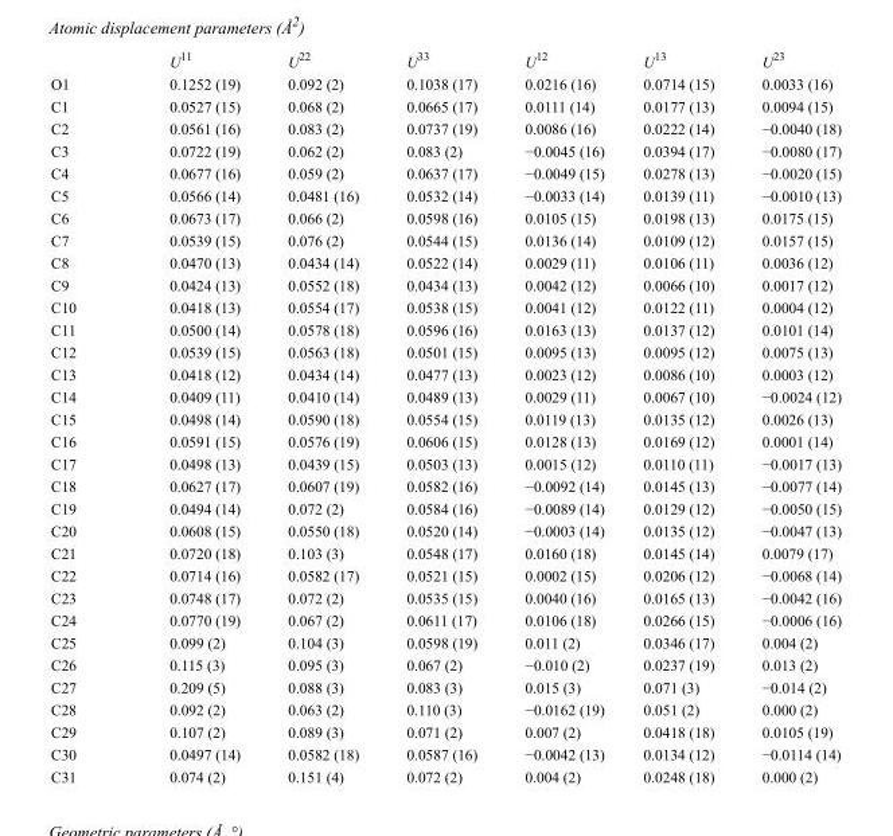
<table><thead><tr><td></td><td>U<sup>11</sup></td><td>U<sup>22</sup></td><td>U<sup>33</sup></td><td>U<sup>12</sup></td><td>U<sup>13</sup></td><td>U<sup>23</sup></td></tr></thead><tbody><tr><td>O1</td><td>0.1252 (19)</td><td>0.092 (2)</td><td>0.1038 (17)</td><td>0.0216 (16)</td><td>0.0714 (15)</td><td>0.0033 (16)</td></tr><tr><td>C1</td><td>0.0527 (15)</td><td>0.068 (2)</td><td>0.0665 (17)</td><td>0.0111 (14)</td><td>0.0177 (13)</td><td>0.0094 (15)</td></tr><tr><td>C2</td><td>0.0561 (16)</td><td>0.083 (2)</td><td>0.0737 (19)</td><td>0.0086 (16)</td><td>0.0222 (14)</td><td>−0.0040 (18)</td></tr><tr><td>C3</td><td>0.0722 (19)</td><td>0.062 (2)</td><td>0.083 (2)</td><td>−0.0045 (16)</td><td>0.0394 (17)</td><td>−0.0080 (17)</td></tr><tr><td>C4</td><td>0.0677 (16)</td><td>0.059 (2)</td><td>0.0637 (17)</td><td>−0.0049 (15)</td><td>0.0278 (13)</td><td>−0.0020 (15)</td></tr><tr><td>C5</td><td>0.0566 (14)</td><td>0.0481 (16)</td><td>0.0532 (14)</td><td>−0.0033 (14)</td><td>0.0139 (11)</td><td>−0.0010 (13)</td></tr><tr><td>C6</td><td>0.0673 (17)</td><td>0.066 (2)</td><td>0.0598 (16)</td><td>0.0105 (15)</td><td>0.0198 (13)</td><td>0.0175 (15)</td></tr><tr><td>C7</td><td>0.0539 (15)</td><td>0.076 (2)</td><td>0.0544 (15)</td><td>0.0136 (14)</td><td>0.0109 (12)</td><td>0.0157 (15)</td></tr><tr><td>C8</td><td>0.0470 (13)</td><td>0.0434 (14)</td><td>0.0522 (14)</td><td>0.0029 (11)</td><td>0.0106 (11)</td><td>0.0036 (12)</td></tr><tr><td>C9</td><td>0.0424 (13)</td><td>0.0552 (18)</td><td>0.0434 (13)</td><td>0.0042 (12)</td><td>0.0066 (10)</td><td>0.0017 (12)</td></tr><tr><td>C10</td><td>0.0418 (13)</td><td>0.0554 (17)</td><td>0.0538 (15)</td><td>0.0041 (12)</td><td>0.0122 (11)</td><td>0.0004 (12)</td></tr><tr><td>C11</td><td>0.0500 (14)</td><td>0.0578 (18)</td><td>0.0596 (16)</td><td>0.0163 (13)</td><td>0.0137 (12)</td><td>0.0101 (14)</td></tr><tr><td>C12</td><td>0.0539 (15)</td><td>0.0563 (18)</td><td>0.0501 (15)</td><td>0.0095 (13)</td><td>0.0095 (12)</td><td>0.0075 (13)</td></tr><tr><td>C13</td><td>0.0418 (12)</td><td>0.0434 (14)</td><td>0.0477 (13)</td><td>0.0023 (12)</td><td>0.0086 (10)</td><td>0.0003 (12)</td></tr><tr><td>C14</td><td>0.0409 (11)</td><td>0.0410 (14)</td><td>0.0489 (13)</td><td>0.0029 (11)</td><td>0.0067 (10)</td><td>−0.0024 (12)</td></tr><tr><td>C15</td><td>0.0498 (14)</td><td>0.0590 (18)</td><td>0.0554 (15)</td><td>0.0119 (13)</td><td>0.0135 (12)</td><td>0.0026 (13)</td></tr><tr><td>C16</td><td>0.0591 (15)</td><td>0.0576 (19)</td><td>0.0606 (15)</td><td>0.0128 (13)</td><td>0.0169 (12)</td><td>0.0001 (14)</td></tr><tr><td>C17</td><td>0.0498 (13)</td><td>0.0439 (15)</td><td>0.0503 (13)</td><td>0.0015 (12)</td><td>0.0110 (11)</td><td>−0.0017 (13)</td></tr><tr><td>C18</td><td>0.0627 (17)</td><td>0.0607 (19)</td><td>0.0582 (16)</td><td>−0.0092 (14)</td><td>0.0145 (13)</td><td>−0.0077 (14)</td></tr><tr><td>C19</td><td>0.0494 (14)</td><td>0.072 (2)</td><td>0.0584 (16)</td><td>−0.0089 (14)</td><td>0.0129 (12)</td><td>−0.0050 (15)</td></tr><tr><td>C20</td><td>0.0608 (15)</td><td>0.0550 (18)</td><td>0.0520 (14)</td><td>−0.0003 (14)</td><td>0.0135 (12)</td><td>−0.0047 (13)</td></tr><tr><td>C21</td><td>0.0720 (18)</td><td>0.103 (3)</td><td>0.0548 (17)</td><td>0.0160 (18)</td><td>0.0145 (14)</td><td>0.0079 (17)</td></tr><tr><td>C22</td><td>0.0714 (16)</td><td>0.0582 (17)</td><td>0.0521 (15)</td><td>0.0002 (15)</td><td>0.0206 (12)</td><td>−0.0068 (14)</td></tr><tr><td>C23</td><td>0.0748 (17)</td><td>0.072 (2)</td><td>0.0535 (15)</td><td>0.0040 (16)</td><td>0.0165 (13)</td><td>−0.0042 (16)</td></tr><tr><td>C24</td><td>0.0770 (19)</td><td>0.067 (2)</td><td>0.0611 (17)</td><td>0.0106 (18)</td><td>0.0266 (15)</td><td>−0.0006 (16)</td></tr><tr><td>C25</td><td>0.099 (2)</td><td>0.104 (3)</td><td>0.0598 (19)</td><td>0.011 (2)</td><td>0.0346 (17)</td><td>0.004 (2)</td></tr><tr><td>C26</td><td>0.115 (3)</td><td>0.095 (3)</td><td>0.067 (2)</td><td>−0.010 (2)</td><td>0.0237 (19)</td><td>0.013 (2)</td></tr><tr><td>C27</td><td>0.209 (5)</td><td>0.088 (3)</td><td>0.083 (3)</td><td>0.015 (3)</td><td>0.071 (3)</td><td>−0.014 (2)</td></tr><tr><td>C28</td><td>0.092 (2)</td><td>0.063 (2)</td><td>0.110 (3)</td><td>−0.0162 (19)</td><td>0.051 (2)</td><td>0.000 (2)</td></tr><tr><td>C29</td><td>0.107 (2)</td><td>0.089 (3)</td><td>0.071 (2)</td><td>0.007 (2)</td><td>0.0418 (18)</td><td>0.0105 (19)</td></tr><tr><td>C30</td><td>0.0497 (14)</td><td>0.0582 (18)</td><td>0.0587 (16)</td><td>−0.0042 (13)</td><td>0.0134 (12)</td><td>−0.0114 (14)</td></tr><tr><td>C31</td><td>0.074 (2)</td><td>0.151 (4)</td><td>0.072 (2)</td><td>0.004 (2)</td><td>0.0248 (18)</td><td>0.000 (2)</td></tr></tbody></table>